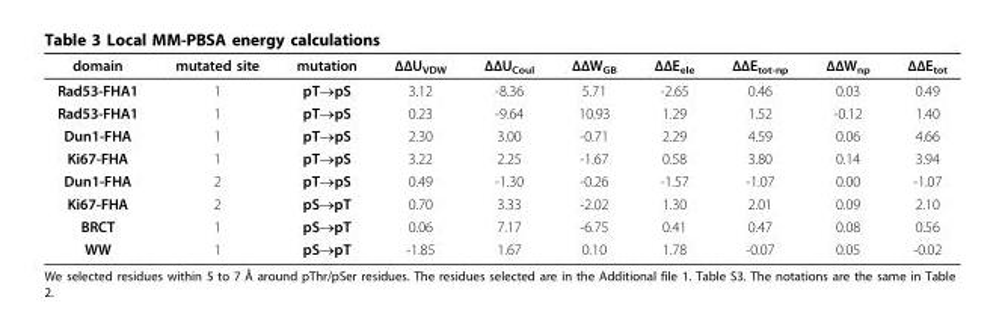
<table><thead><tr><td>domain</td><td>mutated site</td><td>mutation</td><td>ΔΔU<sub>VDW</sub></td><td>ΔΔU<sub>Coul</sub></td><td>ΔΔW<sub>GB</sub></td><td>ΔΔE<sub>ele</sub></td><td>ΔΔE<sub>tot-np</sub></td><td>ΔΔW<sub>np</sub></td><td>ΔΔE<sub>tot</sub></td></tr></thead><tbody><tr><td>Rad53-FHA1</td><td>1</td><td>pT→pS</td><td>3.12</td><td>-8.36</td><td>5.71</td><td>-2.65</td><td>0.46</td><td>0.03</td><td>0.49</td></tr><tr><td>Rad53-FHA1</td><td>1</td><td>pT→pS</td><td>0.23</td><td>-9.64</td><td>10.93</td><td>1.29</td><td>1.52</td><td>-0.12</td><td>1.40</td></tr><tr><td>Dun1-FHA</td><td>1</td><td>pT→pS</td><td>2.30</td><td>3.00</td><td>-0.71</td><td>2.29</td><td>4.59</td><td>0.06</td><td>4.66</td></tr><tr><td>Ki67-FHA</td><td>1</td><td>pT→pS</td><td>3.22</td><td>2.25</td><td>-1.67</td><td>0.58</td><td>3.80</td><td>0.14</td><td>3.94</td></tr><tr><td>Dun1-FHA</td><td>2</td><td>pT→pS</td><td>0.49</td><td>-1.30</td><td>-0.26</td><td>-1.57</td><td>-1.07</td><td>0.00</td><td>-1.07</td></tr><tr><td>Ki67-FHA</td><td>2</td><td>pS→pT</td><td>0.70</td><td>3.33</td><td>-2.02</td><td>1.30</td><td>2.01</td><td>0.09</td><td>2.10</td></tr><tr><td>BRCT</td><td>1</td><td>pS→pT</td><td>0.06</td><td>7.17</td><td>-6.75</td><td>0.41</td><td>0.47</td><td>0.08</td><td>0.56</td></tr><tr><td>WW</td><td>1</td><td>pS→pT</td><td>-1.85</td><td>1.67</td><td>0.10</td><td>1.78</td><td>-0.07</td><td>0.05</td><td>-0.02</td></tr></tbody></table>